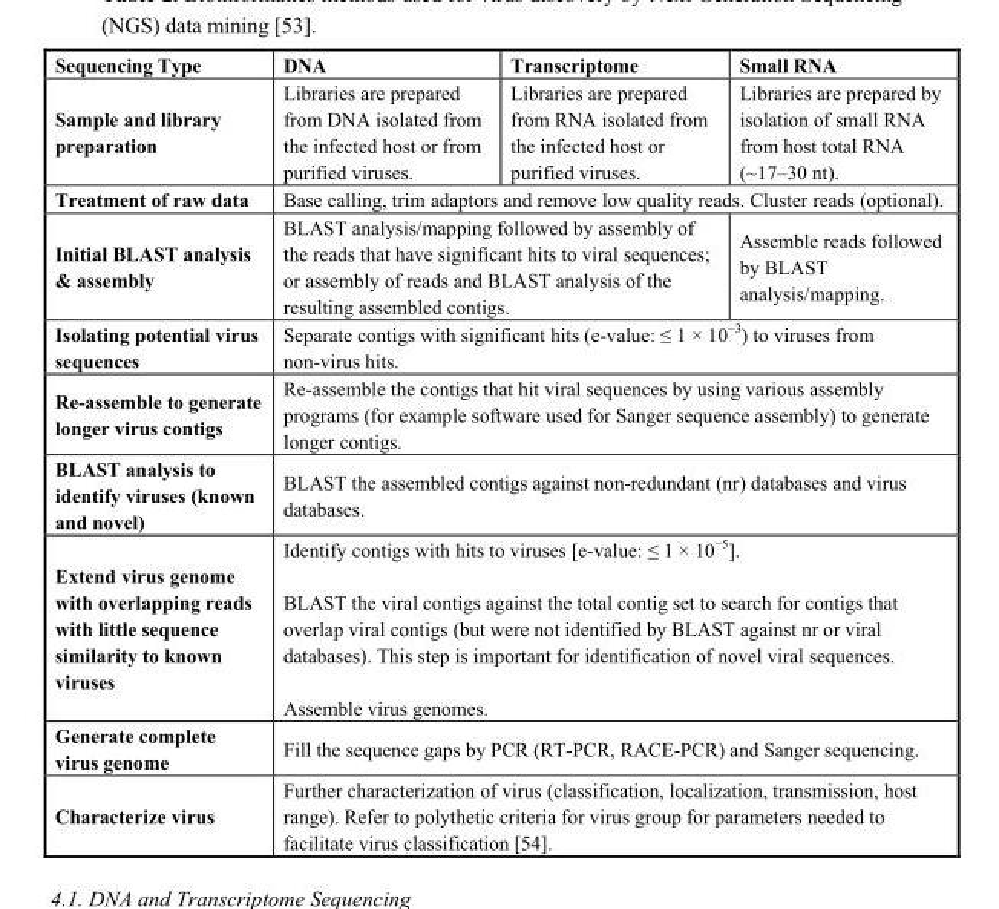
<table><thead><tr><td>Sequencing Type</td><td>DNA</td><td>Transcriptome</td><td>Small RNA</td></tr></thead><tbody><tr><td>Sample and library preparation</td><td>Libraries are prepared from DNA isolated from the infected host or from purified viruses.</td><td>Libraries are prepared from RNA isolated from the infected host or purified viruses.</td><td>Libraries are prepared by isolation of small RNA from host total RNA (~17–30 nt).</td></tr><tr><td>Treatment of raw data</td><td colspan="3">Base calling, trim adaptors and remove low quality reads. Cluster reads (optional).</td></tr><tr><td>Initial BLAST analysis &amp; assembly</td><td colspan="2">BLAST analysis/mapping followed by assembly of the reads that have significant hits to viral sequences; or assembly of reads and BLAST analysis of the resulting assembled contigs.</td><td>Assemble reads followed by BLAST analysis/mapping.</td></tr><tr><td>Isolating potential virus sequences</td><td colspan="3">Separate contigs with significant hits (e-value: ≤ 1 × 10<sup>−3</sup>) to viruses from non-virus hits.</td></tr><tr><td>Re-assemble to generate longer virus contigs</td><td colspan="3">Re-assemble the contigs that hit viral sequences by using various assembly programs (for example software used for Sanger sequence assembly) to generate longer contigs.</td></tr><tr><td>BLAST analysis to identify viruses (known and novel)</td><td colspan="3">BLAST the assembled contigs against non-redundant (nr) databases and virus databases.</td></tr><tr><td>Extend virus genome with overlapping reads with little sequence similarity to known viruses</td><td colspan="3">Identify contigs with hits to viruses [e-value: ≤ 1 × 10<sup>−5</sup>]. BLAST the viral contigs against the total contig set to search for contigs that overlap viral contigs (but were not identified by BLAST against nr or viral databases). This step is important for identification of novel viral sequences. Assemble virus genomes.</td></tr><tr><td>Generate complete virus genome</td><td colspan="3">Fill the sequence gaps by PCR (RT-PCR, RACE-PCR) and Sanger sequencing.</td></tr><tr><td>Characterize virus</td><td colspan="3">Further characterization of virus (classification, localization, transmission, host range). Refer to polythetic criteria for virus group for parameters needed to facilitate virus classification [54].</td></tr></tbody></table>